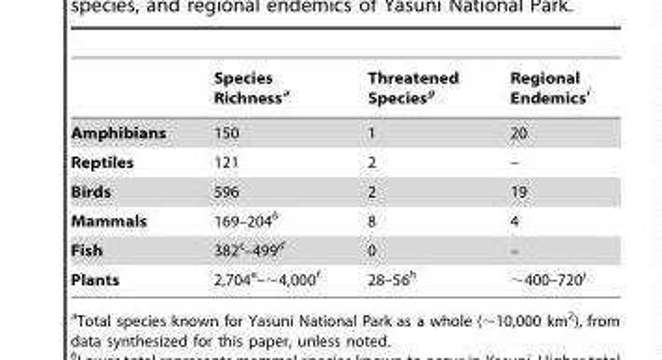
<table><thead><tr><td></td><td>Species Richness<sup>a</sup></td><td>Threatened Species<sup>g</sup></td><td>Regional Endemics<sup>i</sup></td></tr></thead><tbody><tr><td>Amphibians</td><td>150</td><td>1</td><td>20</td></tr><tr><td>Reptiles</td><td>121</td><td>2</td><td>–</td></tr><tr><td>Birds</td><td>596</td><td>2</td><td>19</td></tr><tr><td>Mammals</td><td>169–204<sup>b</sup></td><td>8</td><td>4</td></tr><tr><td>Fish</td><td>382<sup>c</sup>–499<sup>d</sup></td><td>0</td><td>–</td></tr><tr><td>Plants</td><td>2,704<sup>e</sup>–∼4,000<sup>f</sup></td><td>28–56<sup>h</sup></td><td>∼400–720<sup>j</sup></td></tr></tbody></table>